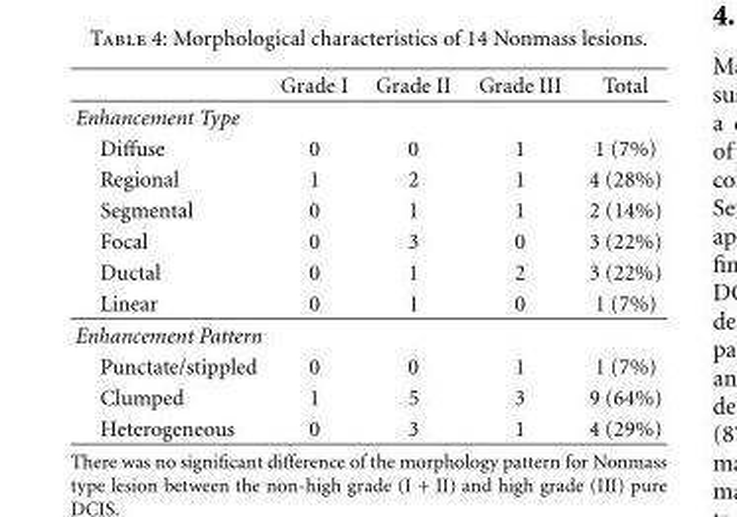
<table><thead><tr><td></td><td>Grade I</td><td>Grade II</td><td>Grade III</td><td>Total</td></tr></thead><tbody><tr><td colspan="5">Enhancement Type</td></tr><tr><td>Diffuse</td><td>0</td><td>0</td><td>1</td><td>1 (7%)</td></tr><tr><td>Regional</td><td>1</td><td>2</td><td>1</td><td>4 (28%)</td></tr><tr><td>Segmental</td><td>0</td><td>1</td><td>1</td><td>2 (14%)</td></tr><tr><td>Focal</td><td>0</td><td>3</td><td>0</td><td>3 (22%)</td></tr><tr><td>Ductal</td><td>0</td><td>1</td><td>2</td><td>3 (22%)</td></tr><tr><td>Linear</td><td>0</td><td>1</td><td>0</td><td>1 (7%)</td></tr><tr><td colspan="5">Enhancement Pattern</td></tr><tr><td>Punctate/stippled</td><td>0</td><td>0</td><td>1</td><td>1 (7%)</td></tr><tr><td>Clumped</td><td>1</td><td>5</td><td>3</td><td>9 (64%)</td></tr><tr><td>Heterogeneous</td><td>0</td><td>3</td><td>1</td><td>4 (29%)</td></tr></tbody></table>